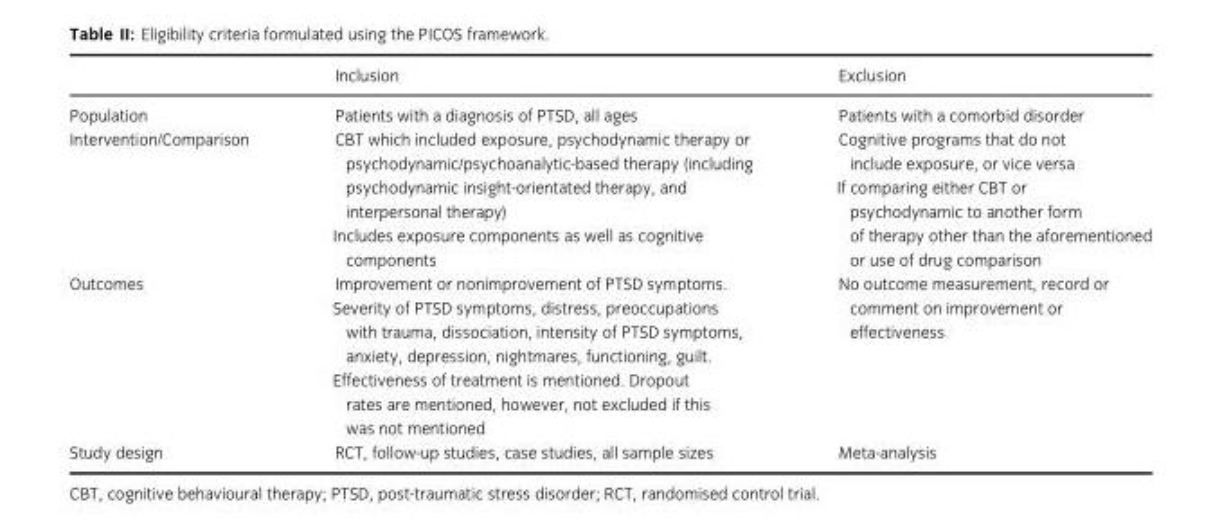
<table><thead><tr><td></td><td>Inclusion</td><td>Exclusion</td></tr></thead><tbody><tr><td>Population</td><td>Patients with a diagnosis of PTSD, all ages</td><td>Patients with a comorbid disorder</td></tr><tr><td>Intervention/Comparison</td><td>CBT which included exposure, psychodynamic therapy or psychodynamic/psychoanalytic-based therapy (including psychodynamic insight-orientated therapy, and interpersonal therapy) Includes exposure components as well as cognitive components</td><td>Cognitive programs that do not include exposure, or vice versa If comparing either CBT or psychodynamic to another form of therapy other than the aforementioned or use of drug comparison</td></tr><tr><td>Outcomes</td><td>Improvement or nonimprovement of PTSD symptoms. Severity of PTSD symptoms, distress, preoccupations with trauma, dissociation, intensity of PTSD symptoms, anxiety, depression, nightmares, functioning, guilt. Effectiveness of treatment is mentioned. Dropout rates are mentioned, however, not excluded if this was not mentioned</td><td>No outcome measurement, record or comment on improvement or effectiveness</td></tr><tr><td>Study design</td><td>RCT, follow-up studies, case studies, all sample sizes</td><td>Meta-analysis</td></tr></tbody></table>